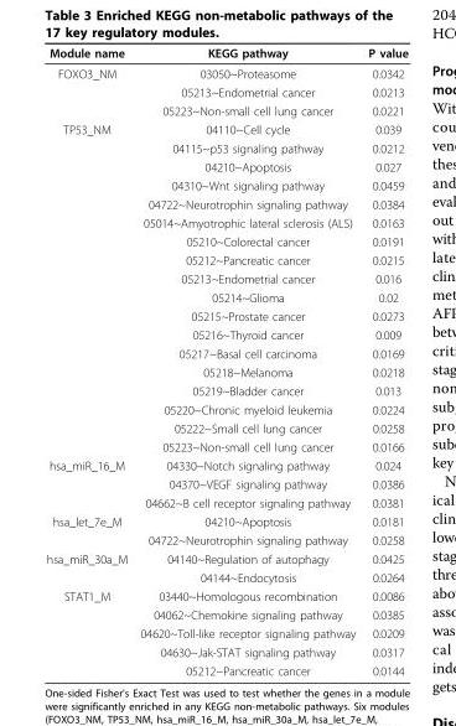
<table><thead><tr><td>Module name</td><td>KEGG pathway</td><td>P value</td></tr></thead><tbody><tr><td rowspan="3">FOXO3_NM</td><td>03050~Proteasome</td><td>0.0342</td></tr><tr><td>05213~Endometrial cancer</td><td>0.0213</td></tr><tr><td>05223~Non-small cell lung cancer</td><td>0.0221</td></tr><tr><td rowspan="18">TP53_NM</td><td>04110~Cell cycle</td><td>0.039</td></tr><tr><td>04115~p53 signaling pathway</td><td>0.0212</td></tr><tr><td>04210~Apoptosis</td><td>0.027</td></tr><tr><td>04310~Wnt signaling pathway</td><td>0.0459</td></tr><tr><td>04722~Neurotrophin signaling pathway</td><td>0.0384</td></tr><tr><td>05014~Amyotrophic lateral sclerosis (ALS)</td><td>0.0163</td></tr><tr><td>05210~Colorectal cancer</td><td>0.0191</td></tr><tr><td>05212~Pancreatic cancer</td><td>0.0215</td></tr><tr><td>05213~Endometrial cancer</td><td>0.016</td></tr><tr><td>05214~Glioma</td><td>0.02</td></tr><tr><td>05215~Prostate cancer</td><td>0.0273</td></tr><tr><td>05216~Thyroid cancer</td><td>0.009</td></tr><tr><td>05217~Basal cell carcinoma</td><td>0.0169</td></tr><tr><td>05218~Melanoma</td><td>0.0218</td></tr><tr><td>05219~Bladder cancer</td><td>0.013</td></tr><tr><td>05220~Chronic myeloid leukemia</td><td>0.0224</td></tr><tr><td>05222~Small cell lung cancer</td><td>0.0258</td></tr><tr><td>05223~Non-small cell lung cancer</td><td>0.0166</td></tr><tr><td rowspan="3">hsa_miR_16_M</td><td>04330~Notch signaling pathway</td><td>0.024</td></tr><tr><td>04370~VEGF signaling pathway</td><td>0.0386</td></tr><tr><td>04662~B cell receptor signaling pathway</td><td>0.0381</td></tr><tr><td rowspan="2">hsa_let_7e_M</td><td>04210~Apoptosis</td><td>0.0181</td></tr><tr><td>04722~Neurotrophin signaling pathway</td><td>0.0258</td></tr><tr><td rowspan="2">hsa_miR_30a_M</td><td>04140~Regulation of autophagy</td><td>0.0425</td></tr><tr><td>04144~Endocytosis</td><td>0.0264</td></tr><tr><td rowspan="5">STAT1_M</td><td>03440~Homologous recombination</td><td>0.0086</td></tr><tr><td>04062~Chemokine signaling pathway</td><td>0.0385</td></tr><tr><td>04620~Toll-like receptor signaling pathway</td><td>0.0209</td></tr><tr><td>04630~Jak-STAT signaling pathway</td><td>0.0317</td></tr><tr><td>05212~Pancreatic cancer</td><td>0.0144</td></tr></tbody></table>